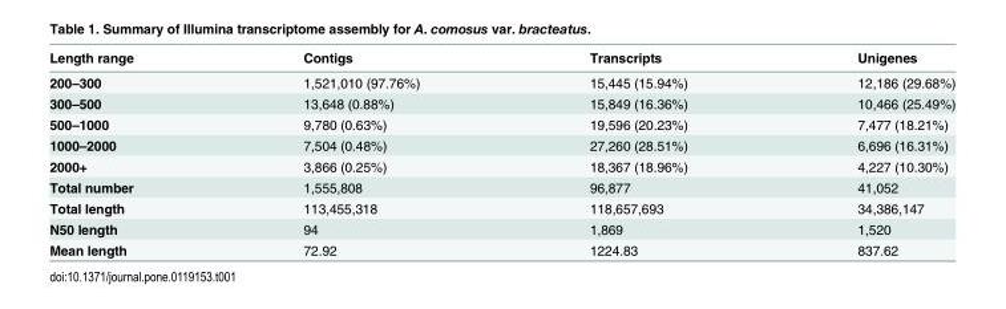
<table><thead><tr><td>Length range</td><td>Contigs</td><td>Transcripts</td><td>Unigenes</td></tr></thead><tbody><tr><td>200–300</td><td>1,521,010 (97.76%)</td><td>15,445 (15.94%)</td><td>12,186 (29.68%)</td></tr><tr><td>300–500</td><td>13,648 (0.88%)</td><td>15,849 (16.36%)</td><td>10,466 (25.49%)</td></tr><tr><td>500–1000</td><td>9,780 (0.63%)</td><td>19,596 (20.23%)</td><td>7,477 (18.21%)</td></tr><tr><td>1000–2000</td><td>7,504 (0.48%)</td><td>27,260 (28.51%)</td><td>6,696 (16.31%)</td></tr><tr><td>2000+</td><td>3,866 (0.25%)</td><td>18,367 (18.96%)</td><td>4,227 (10.30%)</td></tr><tr><td>Total number</td><td>1,555,808</td><td>96,877</td><td>41,052</td></tr><tr><td>Total length</td><td>113,455,318</td><td>118,657,693</td><td>34,386,147</td></tr><tr><td>N50 length</td><td>94</td><td>1,869</td><td>1,520</td></tr><tr><td>Mean length</td><td>72.92</td><td>1224.83</td><td>837.62</td></tr></tbody></table>